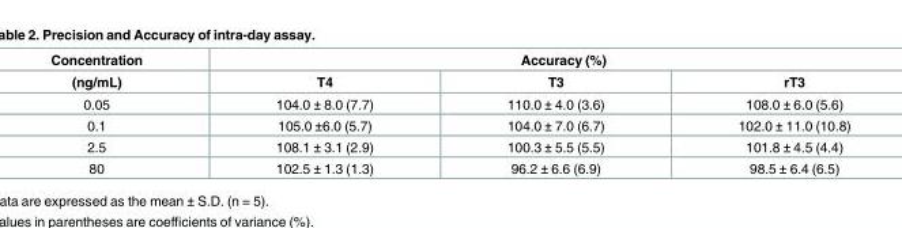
<table><thead><tr><td rowspan="2">Concentration (ng/mL)</td><td colspan="3">Accuracy (%)</td></tr><tr><td>T4</td><td>T3</td><td>rT3</td></tr></thead><tbody><tr><td>0.05</td><td>104.0 ± 8.0 (7.7)</td><td>110.0 ± 4.0 (3.6)</td><td>108.0 ± 6.0 (5.6)</td></tr><tr><td>0.1</td><td>105.0 ±6.0 (5.7)</td><td>104.0 ± 7.0 (6.7)</td><td>102.0 ± 11.0 (10.8)</td></tr><tr><td>2.5</td><td>108.1 ± 3.1 (2.9)</td><td>100.3 ± 5.5 (5.5)</td><td>101.8 ± 4.5 (4.4)</td></tr><tr><td>80</td><td>102.5 ± 1.3 (1.3)</td><td>96.2 ± 6.6 (6.9)</td><td>98.5 ± 6.4 (6.5)</td></tr></tbody></table>